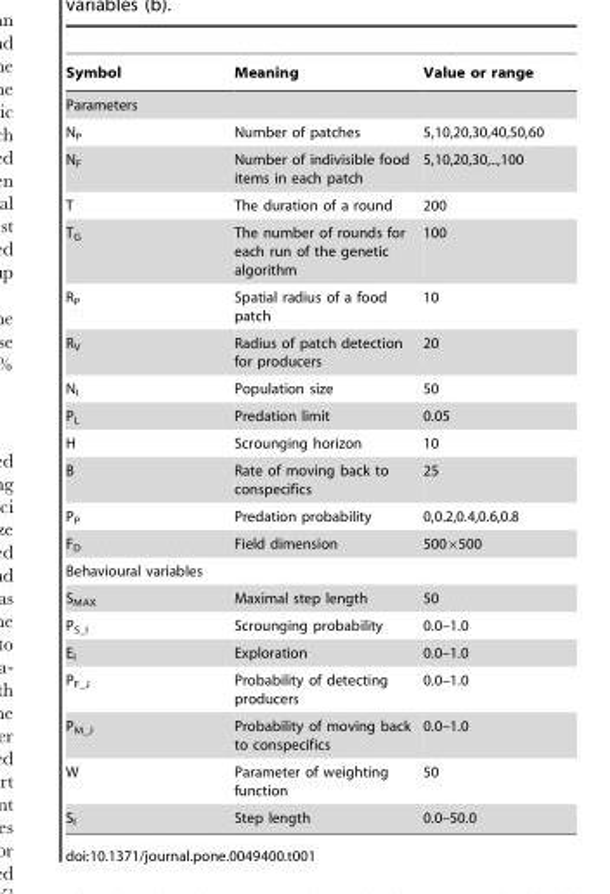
<table><thead><tr><td>Symbol</td><td>Meaning</td><td>Value or range</td></tr></thead><tbody><tr><td colspan="3">Parameters</td></tr><tr><td>N<sub>P</sub></td><td>Number of patches</td><td>5,10,20,30,40,50,60</td></tr><tr><td>N<sub>F</sub></td><td>Number of indivisible food items in each patch</td><td>5,10,20,30,..,100</td></tr><tr><td>T</td><td>The duration of a round</td><td>200</td></tr><tr><td>T<sub>G</sub></td><td>The number of rounds for each run of the genetic algorithm</td><td>100</td></tr><tr><td>R<sub>P</sub></td><td>Spatial radius of a food patch</td><td>10</td></tr><tr><td>R<sub>V</sub></td><td>Radius of patch detection for producers</td><td>20</td></tr><tr><td>N<sub>I</sub></td><td>Population size</td><td>50</td></tr><tr><td>P<sub>L</sub></td><td>Predation limit</td><td>0.05</td></tr><tr><td>H</td><td>Scrounging horizon</td><td>10</td></tr><tr><td>B</td><td>Rate of moving back to conspecifics</td><td>25</td></tr><tr><td>P<sub>P</sub></td><td>Predation probability</td><td>0,0.2,0.4,0.6,0.8</td></tr><tr><td>F<sub>D</sub></td><td>Field dimension</td><td>500×500</td></tr><tr><td colspan="3">Behavioural variables</td></tr><tr><td>S<sub>MAX</sub></td><td>Maximal step length</td><td>50</td></tr><tr><td>P<sub>S_I</sub></td><td>Scrounging probability</td><td>0.0–1.0</td></tr><tr><td>E<sub>I</sub></td><td>Exploration</td><td>0.0–1.0</td></tr><tr><td>P<sub>F_J</sub></td><td>Probability of detecting producers</td><td>0.0–1.0</td></tr><tr><td>P<sub>M_J</sub></td><td>Probability of moving back to conspecifics</td><td>0.0–1.0</td></tr><tr><td>W</td><td>Parameter of weighting function</td><td>50</td></tr><tr><td>S<sub>I</sub></td><td>Step length</td><td>0.0–50.0</td></tr></tbody></table>